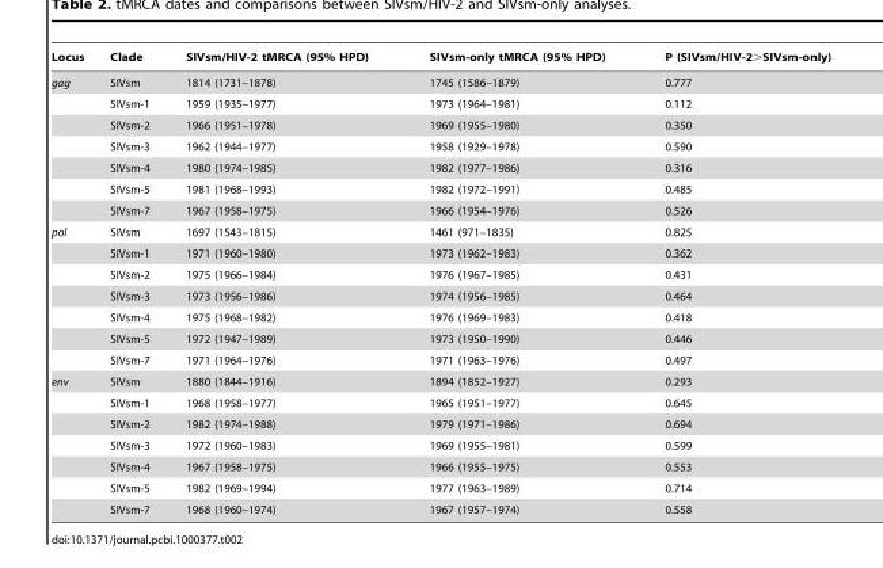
<table><thead><tr><td>Locus</td><td>Clade</td><td>SIVsm/HIV-2 tMRCA (95% HPD)</td><td>SIVsm-only tMRCA (95% HPD)</td><td>P (SIVsm/HIV-2&gt;SIVsm-only)</td></tr></thead><tbody><tr><td rowspan="7">gag</td><td>SIVsm</td><td>1814 (1731–1878)</td><td>1745 (1586–1879)</td><td>0.777</td></tr><tr><td>SIVsm-1</td><td>1959 (1935–1977)</td><td>1973 (1964–1981)</td><td>0.112</td></tr><tr><td>SIVsm-2</td><td>1966 (1951–1978)</td><td>1969 (1955–1980)</td><td>0.350</td></tr><tr><td>SIVsm-3</td><td>1962 (1944–1977)</td><td>1958 (1929–1978)</td><td>0.590</td></tr><tr><td>SIVsm-4</td><td>1980 (1974–1985)</td><td>1982 (1977–1986)</td><td>0.316</td></tr><tr><td>SIVsm-5</td><td>1981 (1968–1993)</td><td>1982 (1972–1991)</td><td>0.485</td></tr><tr><td>SIVsm-7</td><td>1967 (1958–1975)</td><td>1966 (1954–1976)</td><td>0.526</td></tr><tr><td rowspan="7">pol</td><td>SIVsm</td><td>1697 (1543–1815)</td><td>1461 (971–1835)</td><td>0.825</td></tr><tr><td>SIVsm-1</td><td>1971 (1960–1980)</td><td>1973 (1962–1983)</td><td>0.362</td></tr><tr><td>SIVsm-2</td><td>1975 (1966–1984)</td><td>1976 (1967–1985)</td><td>0.431</td></tr><tr><td>SIVsm-3</td><td>1973 (1956–1986)</td><td>1974 (1956–1985)</td><td>0.464</td></tr><tr><td>SIVsm-4</td><td>1975 (1968–1982)</td><td>1976 (1969–1983)</td><td>0.418</td></tr><tr><td>SIVsm-5</td><td>1972 (1947–1989)</td><td>1973 (1950–1990)</td><td>0.446</td></tr><tr><td>SIVsm-7</td><td>1971 (1964–1976)</td><td>1971 (1963–1976)</td><td>0.497</td></tr><tr><td rowspan="7">env</td><td>SIVsm</td><td>1880 (1844–1916)</td><td>1894 (1852–1927)</td><td>0.293</td></tr><tr><td>SIVsm-1</td><td>1968 (1958–1977)</td><td>1965 (1951–1977)</td><td>0.645</td></tr><tr><td>SIVsm-2</td><td>1982 (1974–1988)</td><td>1979 (1971–1986)</td><td>0.694</td></tr><tr><td>SIVsm-3</td><td>1972 (1960–1983)</td><td>1969 (1955–1981)</td><td>0.599</td></tr><tr><td>SIVsm-4</td><td>1967 (1958–1975)</td><td>1966 (1955–1975)</td><td>0.553</td></tr><tr><td>SIVsm-5</td><td>1982 (1969–1994)</td><td>1977 (1963–1989)</td><td>0.714</td></tr><tr><td>SIVsm-7</td><td>1968 (1960–1974)</td><td>1967 (1957–1974)</td><td>0.558</td></tr></tbody></table>